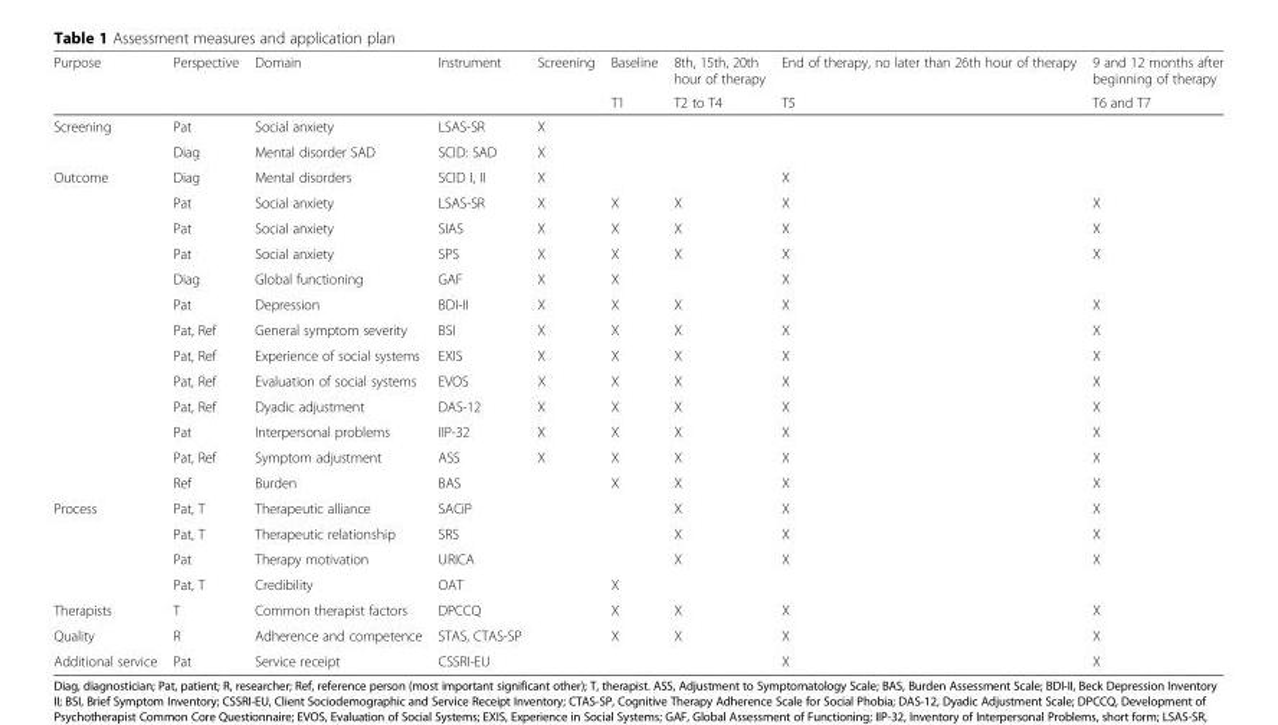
<table><thead><tr><td rowspan="2">Purpose</td><td rowspan="2">Perspective</td><td rowspan="2">Domain</td><td rowspan="2">Instrument</td><td rowspan="2">Screening</td><td rowspan="2">Baseline T1</td><td rowspan="2">8th, 15th, 20th hour of therapy T2 to T4</td><td rowspan="2">End of therapy, no later than 26th hour of therapy T5</td><td rowspan="2">9 and 12 months after beginning of therapy T6 and T7</td></tr><tr></tr></thead><tbody><tr><td rowspan="2">Screening</td><td>Pat</td><td>Social anxiety</td><td>LSAS-SR</td><td>X</td><td></td><td></td><td></td><td></td></tr><tr><td>Diag</td><td>Mental disorder SAD</td><td>SCID: SAD</td><td>X</td><td></td><td></td><td></td><td></td></tr><tr><td rowspan="13">Outcome</td><td>Diag</td><td>Mental disorders</td><td>SCID I, II</td><td>X</td><td></td><td></td><td>X</td><td></td></tr><tr><td>Pat</td><td>Social anxiety</td><td>LSAS-SR</td><td>X</td><td>X</td><td>X</td><td>X</td><td>X</td></tr><tr><td>Pat</td><td>Social anxiety</td><td>SIAS</td><td>X</td><td>X</td><td>X</td><td>X</td><td>X</td></tr><tr><td>Pat</td><td>Social anxiety</td><td>SPS</td><td>X</td><td>X</td><td>X</td><td>X</td><td>X</td></tr><tr><td>Diag</td><td>Global functioning</td><td>GAF</td><td>X</td><td>X</td><td></td><td>X</td><td></td></tr><tr><td>Pat</td><td>Depression</td><td>BDI-II</td><td>X</td><td>X</td><td>X</td><td>X</td><td>X</td></tr><tr><td>Pat, Ref</td><td>General symptom severity</td><td>BSI</td><td>X</td><td>X</td><td>X</td><td>X</td><td>X</td></tr><tr><td>Pat, Ref</td><td>Experience of social systems</td><td>EXIS</td><td>X</td><td>X</td><td>X</td><td>X</td><td>X</td></tr><tr><td>Pat, Ref</td><td>Evaluation of social systems</td><td>EVOS</td><td>X</td><td>X</td><td>X</td><td>X</td><td>X</td></tr><tr><td>Pat, Ref</td><td>Dyadic adjustment</td><td>DAS-12</td><td>X</td><td>X</td><td>X</td><td>X</td><td>X</td></tr><tr><td>Pat</td><td>Interpersonal problems</td><td>IIP-32</td><td>X</td><td>X</td><td>X</td><td>X</td><td>X</td></tr><tr><td>Pat, Ref</td><td>Symptom adjustment</td><td>ASS</td><td>X</td><td>X</td><td>X</td><td>X</td><td>X</td></tr><tr><td>Ref</td><td>Burden</td><td>BAS</td><td></td><td>X</td><td>X</td><td>X</td><td>X</td></tr><tr><td rowspan="4">Process</td><td>Pat, T</td><td>Therapeutic alliance</td><td>SACiP</td><td></td><td></td><td>X</td><td>X</td><td>X</td></tr><tr><td>Pat, T</td><td>Therapeutic relationship</td><td>SRS</td><td></td><td></td><td>X</td><td>X</td><td>X</td></tr><tr><td>Pat</td><td>Therapy motivation</td><td>URICA</td><td></td><td></td><td>X</td><td>X</td><td>X</td></tr><tr><td>Pat, T</td><td>Credibility</td><td>OAT</td><td></td><td>X</td><td></td><td></td><td></td></tr><tr><td>Therapists</td><td>T</td><td>Common therapist factors</td><td>DPCCQ</td><td></td><td>X</td><td>X</td><td>X</td><td>X</td></tr><tr><td>Quality</td><td>R</td><td>Adherence and competence</td><td>STAS, CTAS-SP</td><td></td><td>X</td><td>X</td><td>X</td><td>X</td></tr><tr><td>Additional service</td><td>Pat</td><td>Service receipt</td><td>CSSRI-EU</td><td></td><td></td><td></td><td>X</td><td>X</td></tr></tbody></table>